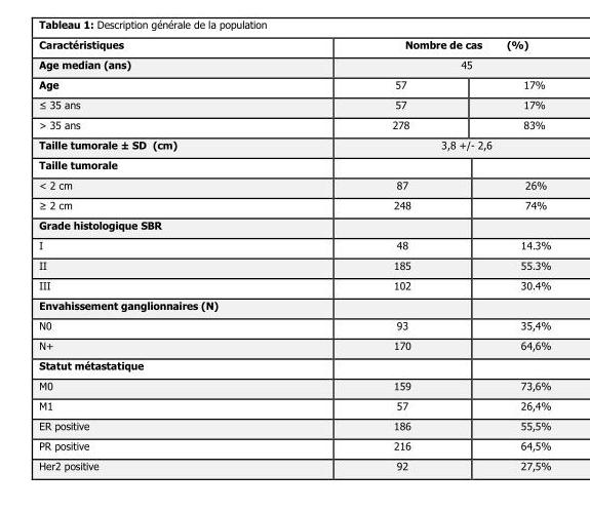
<table><thead><tr><td rowspan="3">Caractéristiques Age median (ans) Age</td><td rowspan="2" colspan="2">Nombre de cas (%) 45</td></tr><tr></tr><tr><td>57</td><td>17%</td></tr></thead><tbody><tr><td>≤ 35 ans</td><td>57</td><td>17%</td></tr><tr><td>&gt; 35 ans</td><td>278</td><td>83%</td></tr><tr><td>Taille tumorale ± SD (cm)</td><td colspan="2">3,8 +/- 2,6</td></tr><tr><td colspan="3">Taille tumorale</td></tr><tr><td>&lt; 2 cm</td><td>87</td><td>26%</td></tr><tr><td>≥ 2 cm</td><td>248</td><td>74%</td></tr><tr><td colspan="3">Grade histologique SBR</td></tr><tr><td>I</td><td>48</td><td>14.3%</td></tr><tr><td>II</td><td>185</td><td>55.3%</td></tr><tr><td>III</td><td>102</td><td>30.4%</td></tr><tr><td colspan="3">Envahissement ganglionnaires (N)</td></tr><tr><td>N0</td><td>93</td><td>35,4%</td></tr><tr><td>N+</td><td>170</td><td>64,6%</td></tr><tr><td colspan="3">Statut métastatique</td></tr><tr><td>M0</td><td>159</td><td>73,6%</td></tr><tr><td>M1</td><td>57</td><td>26,4%</td></tr><tr><td>ER positive</td><td>186</td><td>55,5%</td></tr><tr><td>PR positive</td><td>216</td><td>64,5%</td></tr><tr><td>Her2 positive</td><td>92</td><td>27,5%</td></tr></tbody></table>